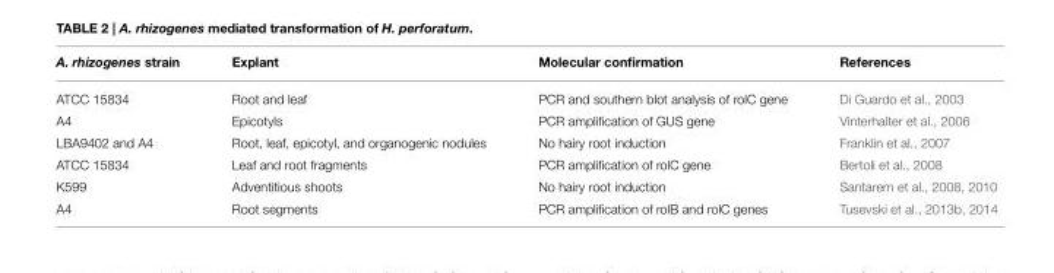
<table><thead><tr><td>A. rhizogenes strain</td><td>Explant</td><td>Molecular confirmation</td><td>References</td></tr></thead><tbody><tr><td>ATCC 15834</td><td>Root and leaf</td><td>PCR and southern blot analysis of rolC gene</td><td>Di Guardo et al., 2003</td></tr><tr><td>A4</td><td>Epicotyls</td><td>PCR amplification of GUS gene</td><td>Vinterhalter et al., 2006</td></tr><tr><td>LBA9402 and A4</td><td>Root, leaf, epicotyl, and organogenic nodules</td><td>No hairy root induction</td><td>Franklin et al., 2007</td></tr><tr><td>ATCC 15834</td><td>Leaf and root fragments</td><td>PCR amplification of rolC gene</td><td>Bertoli et al., 2008</td></tr><tr><td>K599</td><td>Adventitious shoots</td><td>No hairy root induction</td><td>Santarem et al., 2008, 2010</td></tr><tr><td>A4</td><td>Root segments</td><td>PCR amplification of rolB and rolC genes</td><td>Tusevski et al., 2013b, 2014</td></tr></tbody></table>